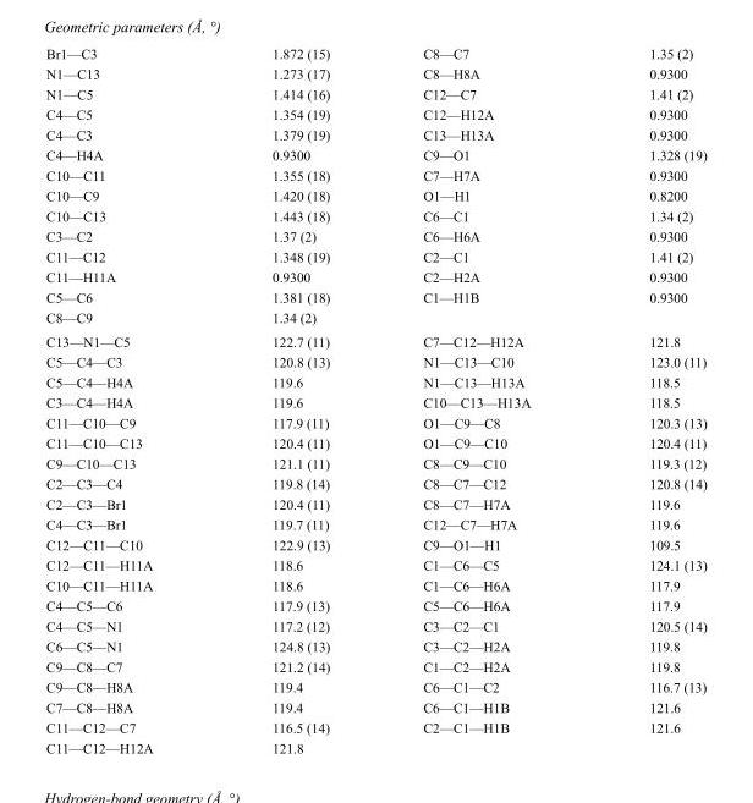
<table><tbody><tr><td>Br1—C3</td><td>1.872 (15)</td><td>C8—C7</td><td>1.35 (2)</td></tr><tr><td>N1—C13</td><td>1.273 (17)</td><td>C8—H8A</td><td>0.9300</td></tr><tr><td>N1—C5</td><td>1.414 (16)</td><td>C12—C7</td><td>1.41 (2)</td></tr><tr><td>C4—C5</td><td>1.354 (19)</td><td>C12—H12A</td><td>0.9300</td></tr><tr><td>C4—C3</td><td>1.379 (19)</td><td>C13—H13A</td><td>0.9300</td></tr><tr><td>C4—H4A</td><td>0.9300</td><td>C9—O1</td><td>1.328 (19)</td></tr><tr><td>C10—C11</td><td>1.355 (18)</td><td>C7—H7A</td><td>0.9300</td></tr><tr><td>C10—C9</td><td>1.420 (18)</td><td>O1—H1</td><td>0.8200</td></tr><tr><td>C10—C13</td><td>1.443 (18)</td><td>C6—C1</td><td>1.34 (2)</td></tr><tr><td>C3—C2</td><td>1.37 (2)</td><td>C6—H6A</td><td>0.9300</td></tr><tr><td>C11—C12</td><td>1.348 (19)</td><td>C2—C1</td><td>1.41 (2)</td></tr><tr><td>C11—H11A</td><td>0.9300</td><td>C2—H2A</td><td>0.9300</td></tr><tr><td>C5—C6</td><td>1.381 (18)</td><td>C1—H1B</td><td>0.9300</td></tr><tr><td>C8—C9</td><td>1.34 (2)</td><td></td><td></td></tr><tr><td>C13—N1—C5</td><td>122.7 (11)</td><td>C7—C12—H12A</td><td>121.8</td></tr><tr><td>C5—C4—C3</td><td>120.8 (13)</td><td>N1—C13—C10</td><td>123.0 (11)</td></tr><tr><td>C5—C4—H4A</td><td>119.6</td><td>N1—C13—H13A</td><td>118.5</td></tr><tr><td>C3—C4—H4A</td><td>119.6</td><td>C10—C13—H13A</td><td>118.5</td></tr><tr><td>C11—C10—C9</td><td>117.9 (11)</td><td>O1—C9—C8</td><td>120.3 (13)</td></tr><tr><td>C11—C10—C13</td><td>120.4 (11)</td><td>O1—C9—C10</td><td>120.4 (11)</td></tr><tr><td>C9—C10—C13</td><td>121.1 (11)</td><td>C8—C9—C10</td><td>119.3 (12)</td></tr><tr><td>C2—C3—C4</td><td>119.8 (14)</td><td>C8—C7—C12</td><td>120.8 (14)</td></tr><tr><td>C2—C3—Br1</td><td>120.4 (11)</td><td>C8—C7—H7A</td><td>119.6</td></tr><tr><td>C4—C3—Br1</td><td>119.7 (11)</td><td>C12—C7—H7A</td><td>119.6</td></tr><tr><td>C12—C11—C10</td><td>122.9 (13)</td><td>C9—O1—H1</td><td>109.5</td></tr><tr><td>C12—C11—H11A</td><td>118.6</td><td>C1—C6—C5</td><td>124.1 (13)</td></tr><tr><td>C10—C11—H11A</td><td>118.6</td><td>C1—C6—H6A</td><td>117.9</td></tr><tr><td>C4—C5—C6</td><td>117.9 (13)</td><td>C5—C6—H6A</td><td>117.9</td></tr><tr><td>C4—C5—N1</td><td>117.2 (12)</td><td>C3—C2—C1</td><td>120.5 (14)</td></tr><tr><td>C6—C5—N1</td><td>124.8 (13)</td><td>C3—C2—H2A</td><td>119.8</td></tr><tr><td>C9—C8—C7</td><td>121.2 (14)</td><td>C1—C2—H2A</td><td>119.8</td></tr><tr><td>C9—C8—H8A</td><td>119.4</td><td>C6—C1—C2</td><td>116.7 (13)</td></tr><tr><td>C7—C8—H8A</td><td>119.4</td><td>C6—C1—H1B</td><td>121.6</td></tr><tr><td>C11—C12—C7</td><td>116.5 (14)</td><td>C2—C1—H1B</td><td>121.6</td></tr><tr><td>C11—C12—H12A</td><td>121.8</td><td></td><td></td></tr></tbody></table>